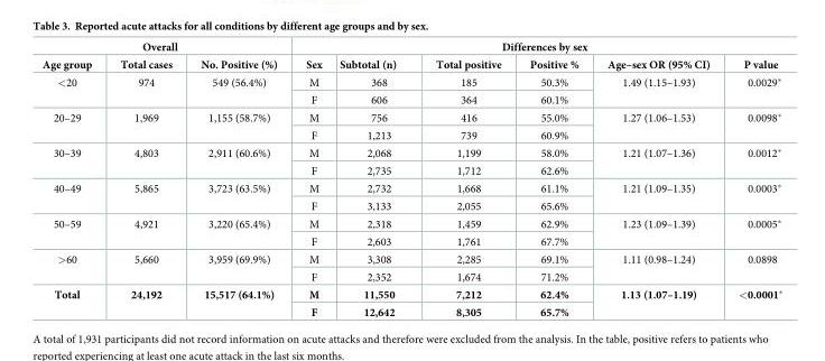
<table><thead><tr><td colspan="3">Overall</td><td colspan="6">Differences by sex</td></tr><tr><td>Age group</td><td>Total cases</td><td>No. Positive (%)</td><td>Sex</td><td>Subtotal (n)</td><td>Total positive</td><td>Positive %</td><td>Age–sex OR (95% CI)</td><td>P value</td></tr></thead><tbody><tr><td rowspan="2">&lt;20</td><td rowspan="2">974</td><td rowspan="2">549 (56.4%)</td><td>M</td><td>368</td><td>185</td><td>50.3%</td><td rowspan="2">1.49 (1.15–1.93)</td><td rowspan="2">0.0029*</td></tr><tr><td>F</td><td>606</td><td>364</td><td>60.1%</td></tr><tr><td rowspan="2">20–29</td><td rowspan="2">1,969</td><td rowspan="2">1,155 (58.7%)</td><td>M</td><td>756</td><td>416</td><td>55.0%</td><td rowspan="2">1.27 (1.06–1.53)</td><td rowspan="2">0.0098*</td></tr><tr><td>F</td><td>1,213</td><td>739</td><td>60.9%</td></tr><tr><td rowspan="2">30–39</td><td rowspan="2">4,803</td><td rowspan="2">2,911 (60.6%)</td><td>M</td><td>2,068</td><td>1,199</td><td>58.0%</td><td rowspan="2">1.21 (1.07–1.36)</td><td rowspan="2">0.0012*</td></tr><tr><td>F</td><td>2,735</td><td>1,712</td><td>62.6%</td></tr><tr><td rowspan="2">40–49</td><td rowspan="2">5,865</td><td rowspan="2">3,723 (63.5%)</td><td>M</td><td>2,732</td><td>1,668</td><td>61.1%</td><td rowspan="2">1.21 (1.09–1.35)</td><td rowspan="2">0.0003*</td></tr><tr><td>F</td><td>3,133</td><td>2,055</td><td>65.6%</td></tr><tr><td rowspan="2">50–59</td><td rowspan="2">4,921</td><td rowspan="2">3,220 (65.4%)</td><td>M</td><td>2,318</td><td>1,459</td><td>62.9%</td><td rowspan="2">1.23 (1.09–1.39)</td><td rowspan="2">0.0005*</td></tr><tr><td>F</td><td>2,603</td><td>1,761</td><td>67.7%</td></tr><tr><td rowspan="2">&gt;60</td><td rowspan="2">5,660</td><td rowspan="2">3,959 (69.9%)</td><td>M</td><td>3,308</td><td>2,285</td><td>69.1%</td><td rowspan="2">1.11 (0.98–1.24)</td><td rowspan="2">0.0898</td></tr><tr><td>F</td><td>2,352</td><td>1,674</td><td>71.2%</td></tr><tr><td rowspan="2">Total</td><td rowspan="2">24,192</td><td rowspan="2">15,517 (64.1%)</td><td>M</td><td>11,550</td><td>7,212</td><td>62.4%</td><td rowspan="2">1.13 (1.07–1.19)</td><td rowspan="2">&lt;0.0001*</td></tr><tr><td>F</td><td>12,642</td><td>8,305</td><td>65.7%</td></tr></tbody></table>